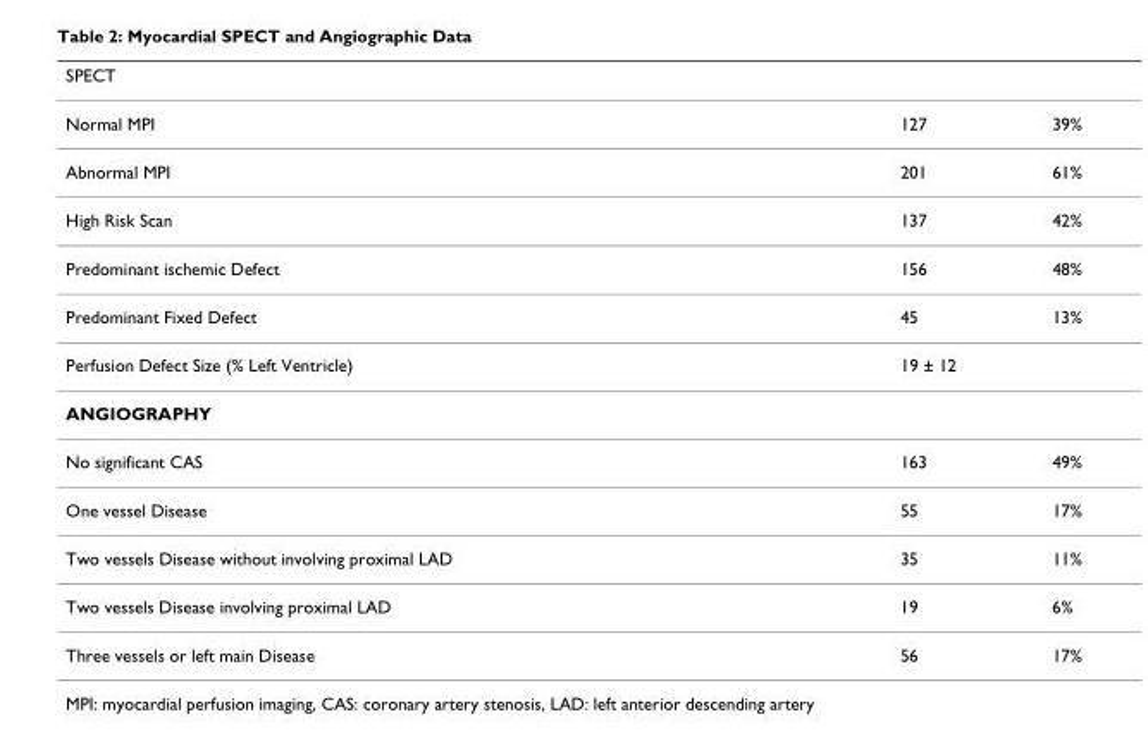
<table><thead><tr><td>SPECT</td><td></td><td></td></tr></thead><tbody><tr><td>Normal MPI</td><td>127</td><td>39%</td></tr><tr><td>Abnormal MPI</td><td>201</td><td>61%</td></tr><tr><td>High Risk Scan</td><td>137</td><td>42%</td></tr><tr><td>Predominant ischemic Defect</td><td>156</td><td>48%</td></tr><tr><td>Predominant Fixed Defect</td><td>45</td><td>13%</td></tr><tr><td>Perfusion Defect Size (% Left Ventricle)</td><td>19 ± 12</td><td></td></tr><tr><td colspan="3">ANGIOGRAPHY</td></tr><tr><td>No significant CAS</td><td>163</td><td>49%</td></tr><tr><td>One vessel Disease</td><td>55</td><td>17%</td></tr><tr><td>Two vessels Disease without involving proximal LAD</td><td>35</td><td>11%</td></tr><tr><td>Two vessels Disease involving proximal LAD</td><td>19</td><td>6%</td></tr><tr><td>Three vessels or left main Disease</td><td>56</td><td>17%</td></tr></tbody></table>